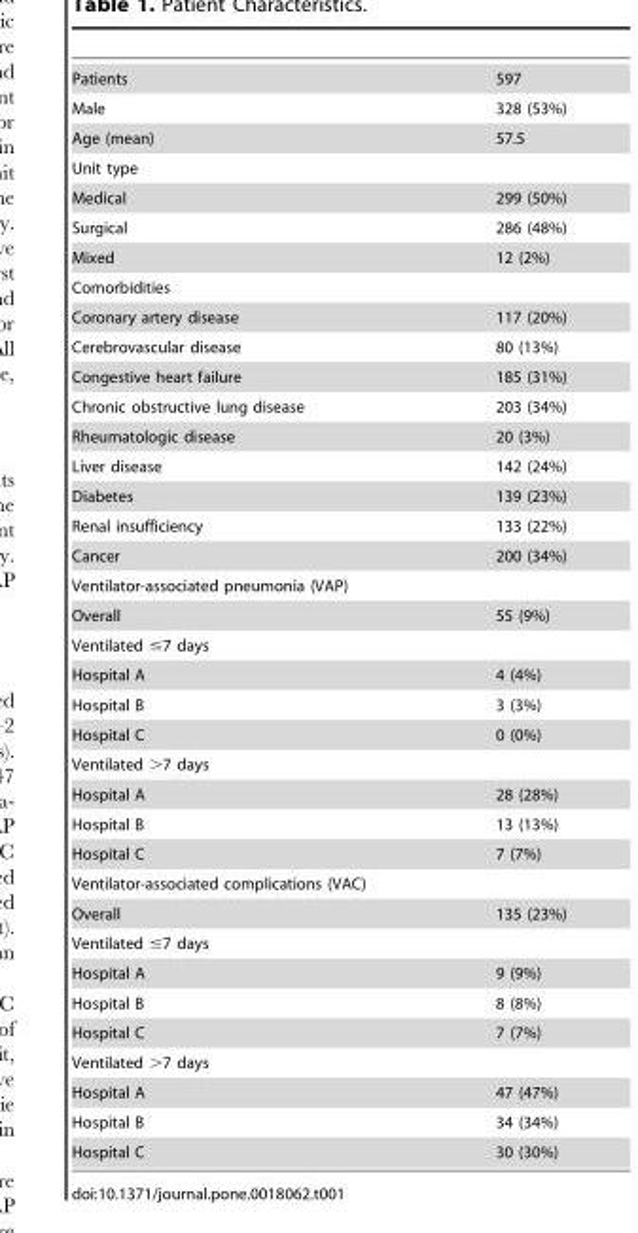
<table><tbody><tr><td>Patients</td><td>597</td></tr><tr><td>Male</td><td>328 (53%)</td></tr><tr><td>Age (mean)</td><td>57.5</td></tr><tr><td colspan="2">Unit type</td></tr><tr><td>Medical</td><td>299 (50%)</td></tr><tr><td>Surgical</td><td>286 (48%)</td></tr><tr><td>Mixed</td><td>12 (2%)</td></tr><tr><td colspan="2">Comorbidities</td></tr><tr><td>Coronary artery disease</td><td>117 (20%)</td></tr><tr><td>Cerebrovascular disease</td><td>80 (13%)</td></tr><tr><td>Congestive heart failure</td><td>185 (31%)</td></tr><tr><td>Chronic obstructive lung disease</td><td>203 (34%)</td></tr><tr><td>Rheumatologic disease</td><td>20 (3%)</td></tr><tr><td>Liver disease</td><td>142 (24%)</td></tr><tr><td>Diabetes</td><td>139 (23%)</td></tr><tr><td>Renal insufficiency</td><td>133 (22%)</td></tr><tr><td>Cancer</td><td>200 (34%)</td></tr><tr><td colspan="2">Ventilator-associated pneumonia (VAP)</td></tr><tr><td>Overall</td><td>55 (9%)</td></tr><tr><td colspan="2">Ventilated ≤7 days</td></tr><tr><td>Hospital A</td><td>4 (4%)</td></tr><tr><td>Hospital B</td><td>3 (3%)</td></tr><tr><td>Hospital C</td><td>0 (0%)</td></tr><tr><td colspan="2">Ventilated &gt;7 days</td></tr><tr><td>Hospital A</td><td>28 (28%)</td></tr><tr><td>Hospital B</td><td>13 (13%)</td></tr><tr><td>Hospital C</td><td>7 (7%)</td></tr><tr><td colspan="2">Ventilator-associated complications (VAC)</td></tr><tr><td>Overall</td><td>135 (23%)</td></tr><tr><td colspan="2">Ventilated ≤7 days</td></tr><tr><td>Hospital A</td><td>9 (9%)</td></tr><tr><td>Hospital B</td><td>8 (8%)</td></tr><tr><td>Hospital C</td><td>7 (7%)</td></tr><tr><td colspan="2">Ventilated &gt;7 days</td></tr><tr><td>Hospital A</td><td>47 (47%)</td></tr><tr><td>Hospital B</td><td>34 (34%)</td></tr><tr><td>Hospital C</td><td>30 (30%)</td></tr></tbody></table>